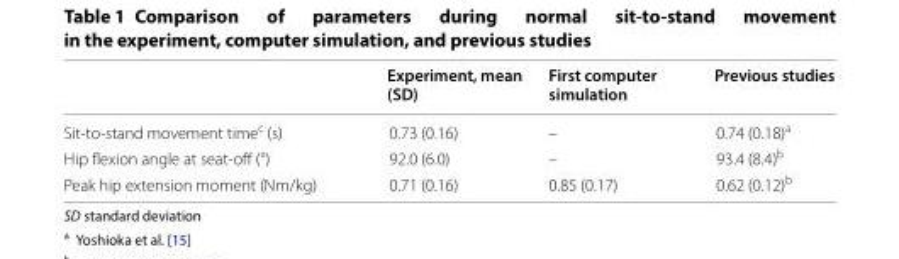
<table><thead><tr><td></td><td>Experiment, mean (SD)</td><td>First computer simulation</td><td>Previous studies</td></tr></thead><tbody><tr><td>Sit-to-stand movement time<sup>c</sup> (s)</td><td>0.73 (0.16)</td><td>–</td><td>0.74 (0.18)<sup>a</sup></td></tr><tr><td>Hip flexion angle at seat-off (°)</td><td>92.0 (6.0)</td><td>–</td><td>93.4 (8.4)<sup>b</sup></td></tr><tr><td>Peak hip extension moment (Nm/kg)</td><td>0.71 (0.16)</td><td>0.85 (0.17)</td><td>0.62 (0.12)<sup>b</sup></td></tr></tbody></table>